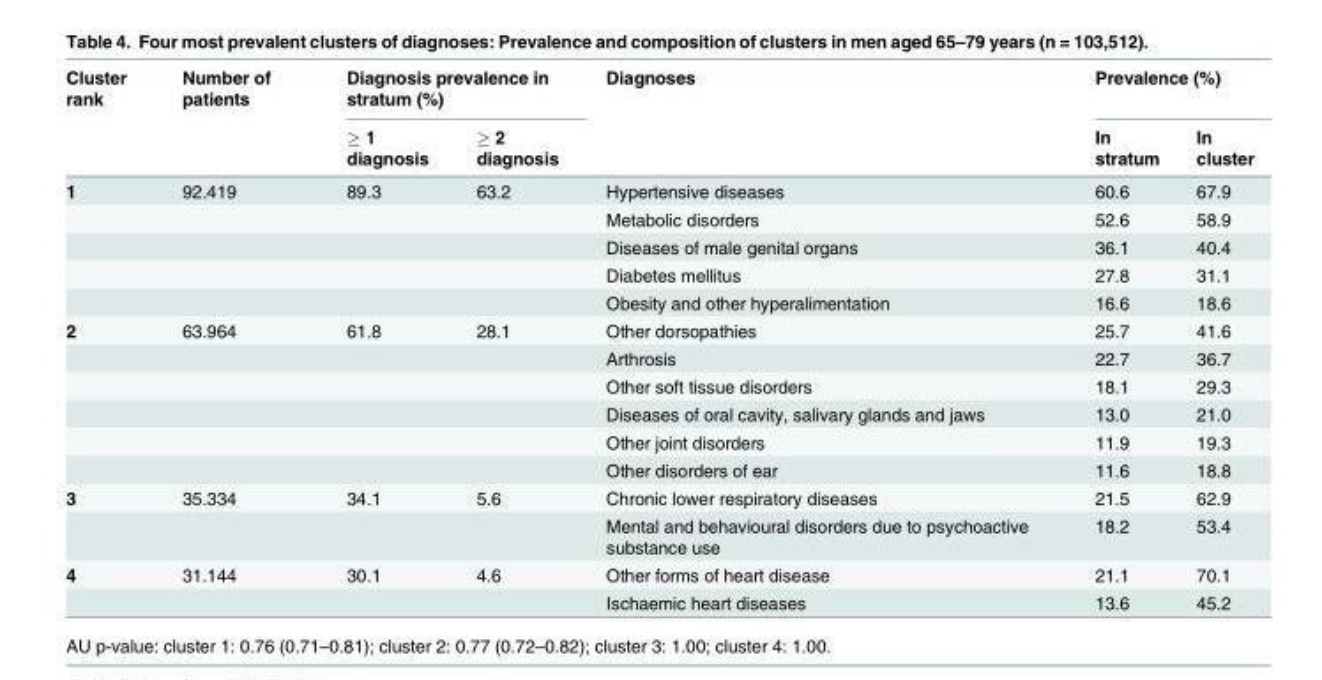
<table><thead><tr><td rowspan="2">Cluster rank</td><td rowspan="2">Number of patients</td><td colspan="2">Diagnosis prevalence in stratum (%)</td><td rowspan="2">Diagnoses</td><td colspan="2">Prevalence (%)</td></tr><tr><td>≥ 1 diagnosis</td><td>≥ 2 diagnosis</td><td>In stratum</td><td>In cluster</td></tr></thead><tbody><tr><td rowspan="5">1</td><td>92.419</td><td>89.3</td><td>63.2</td><td>Hypertensive diseases</td><td>60.6</td><td>67.9</td></tr><tr><td></td><td></td><td></td><td>Metabolic disorders</td><td>52.6</td><td>58.9</td></tr><tr><td></td><td></td><td></td><td>Diseases of male genital organs</td><td>36.1</td><td>40.4</td></tr><tr><td></td><td></td><td></td><td>Diabetes mellitus</td><td>27.8</td><td>31.1</td></tr><tr><td></td><td></td><td></td><td>Obesity and other hyperalimentation</td><td>16.6</td><td>18.6</td></tr><tr><td rowspan="6">2</td><td>63.964</td><td>61.8</td><td>28.1</td><td>Other dorsopathies</td><td>25.7</td><td>41.6</td></tr><tr><td></td><td></td><td></td><td>Arthrosis</td><td>22.7</td><td>36.7</td></tr><tr><td></td><td></td><td></td><td>Other soft tissue disorders</td><td>18.1</td><td>29.3</td></tr><tr><td></td><td></td><td></td><td>Diseases of oral cavity, salivary glands and jaws</td><td>13.0</td><td>21.0</td></tr><tr><td></td><td></td><td></td><td>Other joint disorders</td><td>11.9</td><td>19.3</td></tr><tr><td></td><td></td><td></td><td>Other disorders of ear</td><td>11.6</td><td>18.8</td></tr><tr><td rowspan="2">3</td><td>35.334</td><td>34.1</td><td>5.6</td><td>Chronic lower respiratory diseases</td><td>21.5</td><td>62.9</td></tr><tr><td></td><td></td><td></td><td>Mental and behavioural disorders due to psychoactive substance use</td><td>18.2</td><td>53.4</td></tr><tr><td rowspan="2">4</td><td>31.144</td><td>30.1</td><td>4.6</td><td>Other forms of heart disease</td><td>21.1</td><td>70.1</td></tr><tr><td></td><td></td><td></td><td>Ischaemic heart diseases</td><td>13.6</td><td>45.2</td></tr></tbody></table>